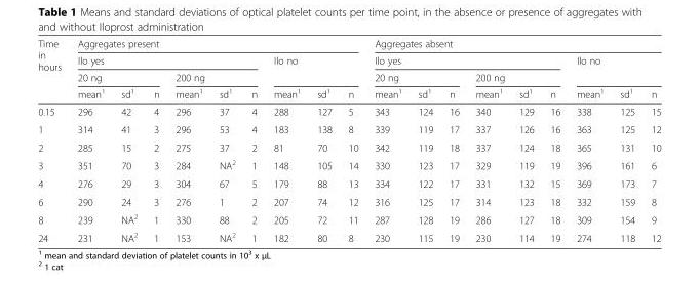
<table><thead><tr><td rowspan="4">Time in hours</td><td colspan="9">Aggregates present</td><td colspan="9">Aggregates absent</td></tr><tr><td colspan="6">Ilo yes</td><td rowspan="2" colspan="3">Ilo no</td><td colspan="6">Ilo yes</td><td rowspan="2" colspan="3">Ilo no</td></tr><tr><td colspan="3">20 ng</td><td colspan="3">200 ng</td><td colspan="3">20 ng</td><td colspan="3">200 ng</td></tr><tr><td>mean<sup>1</sup></td><td>sd<sup>1</sup></td><td>n</td><td>mean<sup>1</sup></td><td>sd<sup>1</sup></td><td>n</td><td>mean<sup>1</sup></td><td>sd<sup>1</sup></td><td>n</td><td>mean<sup>1</sup></td><td>sd<sup>1</sup></td><td>n</td><td>mean<sup>1</sup></td><td>sd<sup>1</sup></td><td>n</td><td>mean<sup>1</sup></td><td>sd<sup>1</sup></td><td>n</td></tr></thead><tbody><tr><td>0.15</td><td>296</td><td>42</td><td>4</td><td>296</td><td>37</td><td>4</td><td>288</td><td>127</td><td>5</td><td>343</td><td>124</td><td>16</td><td>340</td><td>129</td><td>16</td><td>338</td><td>125</td><td>15</td></tr><tr><td>1</td><td>314</td><td>41</td><td>3</td><td>296</td><td>53</td><td>4</td><td>183</td><td>138</td><td>8</td><td>339</td><td>119</td><td>17</td><td>337</td><td>126</td><td>16</td><td>363</td><td>125</td><td>12</td></tr><tr><td>2</td><td>285</td><td>15</td><td>2</td><td>275</td><td>37</td><td>2</td><td>81</td><td>70</td><td>10</td><td>342</td><td>119</td><td>18</td><td>337</td><td>124</td><td>18</td><td>365</td><td>131</td><td>10</td></tr><tr><td>3</td><td>351</td><td>70</td><td>3</td><td>284</td><td>NA<sup>2</sup></td><td>1</td><td>148</td><td>105</td><td>14</td><td>330</td><td>123</td><td>17</td><td>329</td><td>119</td><td>19</td><td>396</td><td>161</td><td>6</td></tr><tr><td>4</td><td>276</td><td>29</td><td>3</td><td>304</td><td>67</td><td>5</td><td>179</td><td>88</td><td>13</td><td>334</td><td>122</td><td>17</td><td>331</td><td>132</td><td>15</td><td>369</td><td>173</td><td>7</td></tr><tr><td>6</td><td>290</td><td>24</td><td>3</td><td>276</td><td>1</td><td>2</td><td>207</td><td>74</td><td>12</td><td>316</td><td>125</td><td>17</td><td>314</td><td>123</td><td>18</td><td>332</td><td>159</td><td>8</td></tr><tr><td>8</td><td>239</td><td>NA<sup>2</sup></td><td>1</td><td>330</td><td>88</td><td>2</td><td>205</td><td>72</td><td>11</td><td>287</td><td>128</td><td>19</td><td>286</td><td>127</td><td>18</td><td>309</td><td>154</td><td>9</td></tr><tr><td>24</td><td>231</td><td>NA<sup>2</sup></td><td>1</td><td>153</td><td>NA<sup>2</sup></td><td>1</td><td>182</td><td>80</td><td>8</td><td>230</td><td>115</td><td>19</td><td>230</td><td>114</td><td>19</td><td>274</td><td>118</td><td>12</td></tr></tbody></table>